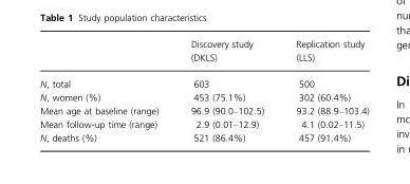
<table><thead><tr><td></td><td>Discovery study (DKLS)</td><td>Replication study (LLS)</td></tr></thead><tbody><tr><td>N, total</td><td>603</td><td>500</td></tr><tr><td>N, women (%)</td><td>453 (75.1%)</td><td>302 (60.4%)</td></tr><tr><td>Mean age at baseline (range)</td><td>96.9 (90.0–102.5)</td><td>93.2 (88.9–103.4)</td></tr><tr><td>Mean follow-up time (range)</td><td>2.9 (0.01–12.9)</td><td>4.1 (0.02–11.5)</td></tr><tr><td>N, deaths (%)</td><td>521 (86.4%)</td><td>457 (91.4%)</td></tr></tbody></table>